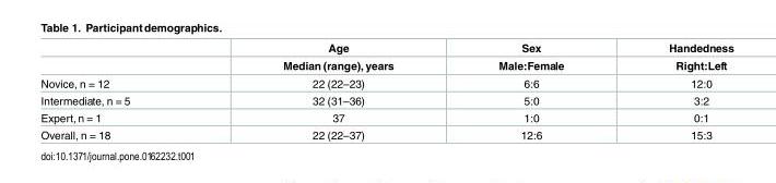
<table><thead><tr><td rowspan="2"></td><td rowspan="2">Age Median (range), years</td><td rowspan="2">Sex Male:Female</td><td rowspan="2">Handedness Right:Left</td></tr><tr></tr></thead><tbody><tr><td>Novice, n = 12</td><td>22 (22–23)</td><td>6:6</td><td>12:0</td></tr><tr><td>Intermediate, n = 5</td><td>32 (31–36)</td><td>5:0</td><td>3:2</td></tr><tr><td>Expert, n = 1</td><td>37</td><td>1:0</td><td>0:1</td></tr><tr><td>Overall, n = 18</td><td>22 (22–37)</td><td>12:6</td><td>15:3</td></tr></tbody></table>